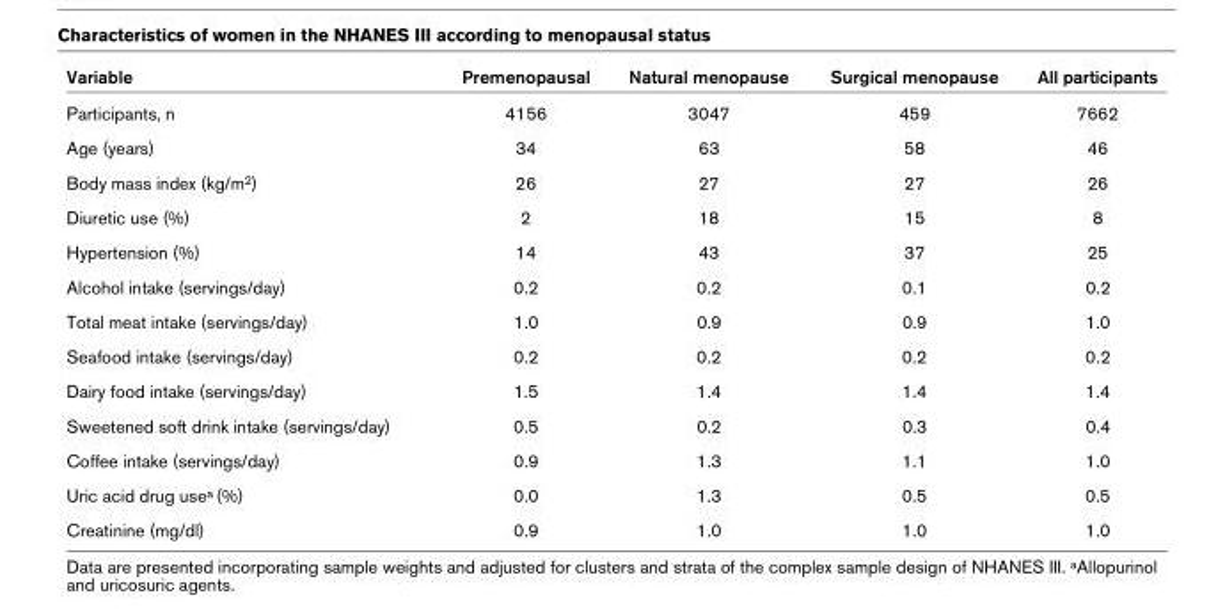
<table><thead><tr><td>Variable</td><td>Premenopausal</td><td>Natural menopause</td><td>Surgical menopause</td><td>All participants</td></tr></thead><tbody><tr><td>Participants, n</td><td>4156</td><td>3047</td><td>459</td><td>7662</td></tr><tr><td>Age (years)</td><td>34</td><td>63</td><td>58</td><td>46</td></tr><tr><td>Body mass index (kg/m<sup>2</sup>)</td><td>26</td><td>27</td><td>27</td><td>26</td></tr><tr><td>Diuretic use (%)</td><td>2</td><td>18</td><td>15</td><td>8</td></tr><tr><td>Hypertension (%)</td><td>14</td><td>43</td><td>37</td><td>25</td></tr><tr><td>Alcohol intake (servings/day)</td><td>0.2</td><td>0.2</td><td>0.1</td><td>0.2</td></tr><tr><td>Total meat intake (servings/day)</td><td>1.0</td><td>0.9</td><td>0.9</td><td>1.0</td></tr><tr><td>Seafood intake (servings/day)</td><td>0.2</td><td>0.2</td><td>0.2</td><td>0.2</td></tr><tr><td>Dairy food intake (servings/day)</td><td>1.5</td><td>1.4</td><td>1.4</td><td>1.4</td></tr><tr><td>Sweetened soft drink intake (servings/day)</td><td>0.5</td><td>0.2</td><td>0.3</td><td>0.4</td></tr><tr><td>Coffee intake (servings/day)</td><td>0.9</td><td>1.3</td><td>1.1</td><td>1.0</td></tr><tr><td>Uric acid drug use<sup>a</sup> (%)</td><td>0.0</td><td>1.3</td><td>0.5</td><td>0.5</td></tr><tr><td>Creatinine (mg/dl)</td><td>0.9</td><td>1.0</td><td>1.0</td><td>1.0</td></tr></tbody></table>